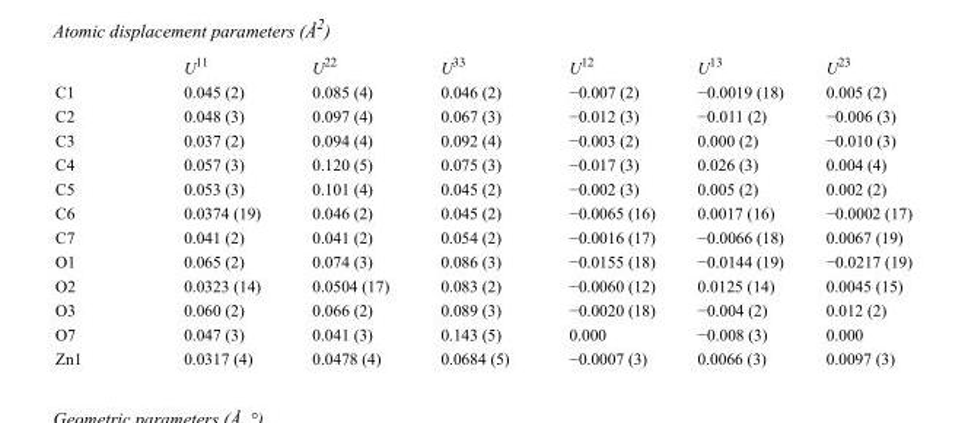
<table><thead><tr><td></td><td>U<sup>11</sup></td><td>U<sup>22</sup></td><td>U<sup>33</sup></td><td>U<sup>12</sup></td><td>U<sup>13</sup></td><td>U<sup>23</sup></td></tr></thead><tbody><tr><td>C1</td><td>0.045 (2)</td><td>0.085 (4)</td><td>0.046 (2)</td><td>−0.007 (2)</td><td>−0.0019 (18)</td><td>0.005 (2)</td></tr><tr><td>C2</td><td>0.048 (3)</td><td>0.097 (4)</td><td>0.067 (3)</td><td>−0.012 (3)</td><td>−0.011 (2)</td><td>−0.006 (3)</td></tr><tr><td>C3</td><td>0.037 (2)</td><td>0.094 (4)</td><td>0.092 (4)</td><td>−0.003 (2)</td><td>0.000 (2)</td><td>−0.010 (3)</td></tr><tr><td>C4</td><td>0.057 (3)</td><td>0.120 (5)</td><td>0.075 (3)</td><td>−0.017 (3)</td><td>0.026 (3)</td><td>0.004 (4)</td></tr><tr><td>C5</td><td>0.053 (3)</td><td>0.101 (4)</td><td>0.045 (2)</td><td>−0.002 (3)</td><td>0.005 (2)</td><td>0.002 (2)</td></tr><tr><td>C6</td><td>0.0374 (19)</td><td>0.046 (2)</td><td>0.045 (2)</td><td>−0.0065 (16)</td><td>0.0017 (16)</td><td>−0.0002 (17)</td></tr><tr><td>C7</td><td>0.041 (2)</td><td>0.041 (2)</td><td>0.054 (2)</td><td>−0.0016 (17)</td><td>−0.0066 (18)</td><td>0.0067 (19)</td></tr><tr><td>O1</td><td>0.065 (2)</td><td>0.074 (3)</td><td>0.086 (3)</td><td>−0.0155 (18)</td><td>−0.0144 (19)</td><td>−0.0217 (19)</td></tr><tr><td>O2</td><td>0.0323 (14)</td><td>0.0504 (17)</td><td>0.083 (2)</td><td>−0.0060 (12)</td><td>0.0125 (14)</td><td>0.0045 (15)</td></tr><tr><td>O3</td><td>0.060 (2)</td><td>0.066 (2)</td><td>0.089 (3)</td><td>−0.0020 (18)</td><td>−0.004 (2)</td><td>0.012 (2)</td></tr><tr><td>O7</td><td>0.047 (3)</td><td>0.041 (3)</td><td>0.143 (5)</td><td>0.000</td><td>−0.008 (3)</td><td>0.000</td></tr><tr><td>Zn1</td><td>0.0317 (4)</td><td>0.0478 (4)</td><td>0.0684 (5)</td><td>−0.0007 (3)</td><td>0.0066 (3)</td><td>0.0097 (3)</td></tr></tbody></table>